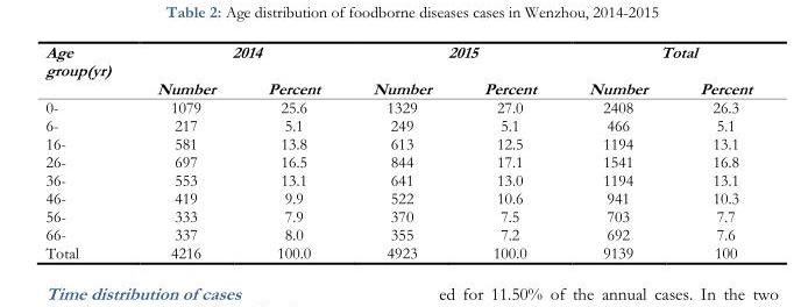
<table><thead><tr><td rowspan="2">Age group(yr)</td><td colspan="2">2014</td><td colspan="2">2015</td><td colspan="2">Total</td></tr><tr><td>Number</td><td>Percent</td><td>Number</td><td>Percent</td><td>Number</td><td>Percent</td></tr></thead><tbody><tr><td>0-</td><td>1079</td><td>25.6</td><td>1329</td><td>27.0</td><td>2408</td><td>26.3</td></tr><tr><td>6-</td><td>217</td><td>5.1</td><td>249</td><td>5.1</td><td>466</td><td>5.1</td></tr><tr><td>16-</td><td>581</td><td>13.8</td><td>613</td><td>12.5</td><td>1194</td><td>13.1</td></tr><tr><td>26-</td><td>697</td><td>16.5</td><td>844</td><td>17.1</td><td>1541</td><td>16.8</td></tr><tr><td>36-</td><td>553</td><td>13.1</td><td>641</td><td>13.0</td><td>1194</td><td>13.1</td></tr><tr><td>46-</td><td>419</td><td>9.9</td><td>522</td><td>10.6</td><td>941</td><td>10.3</td></tr><tr><td>56-</td><td>333</td><td>7.9</td><td>370</td><td>7.5</td><td>703</td><td>7.7</td></tr><tr><td>66-</td><td>337</td><td>8.0</td><td>355</td><td>7.2</td><td>692</td><td>7.6</td></tr><tr><td>Total</td><td>4216</td><td>100.0</td><td>4923</td><td>100.0</td><td>9139</td><td>100</td></tr></tbody></table>